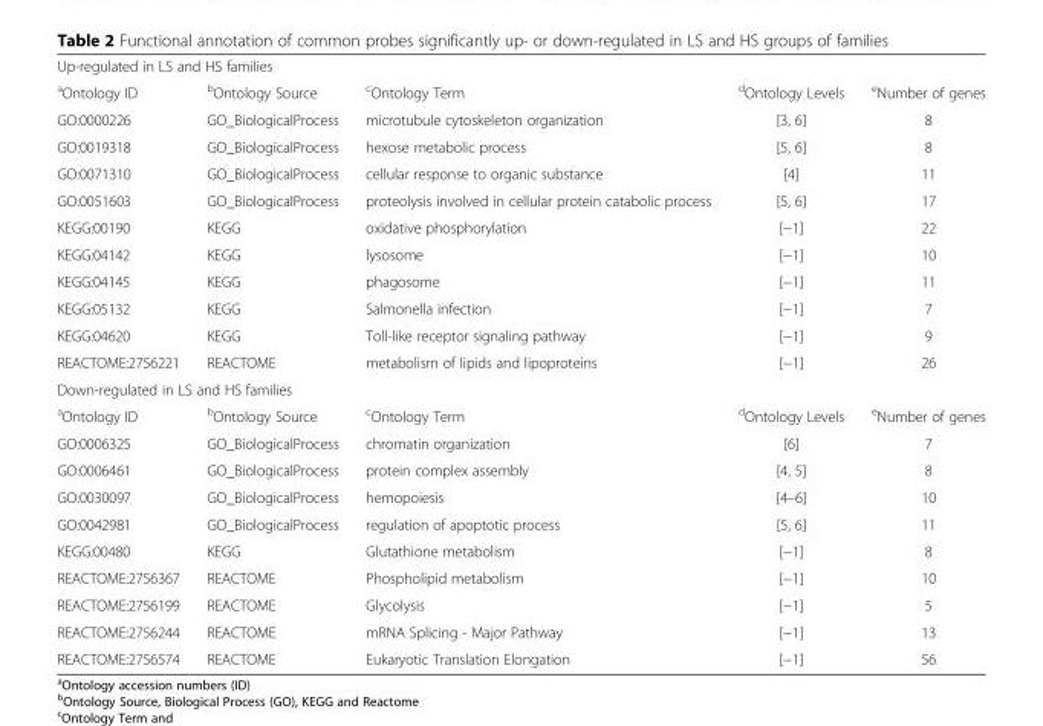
<table><tbody><tr><td colspan="5">Up-regulated in LS and HS families</td></tr><tr><td><sup>a</sup>Ontology ID</td><td><sup>b</sup>Ontology Source</td><td><sup>c</sup>Ontology Term</td><td><sup>d</sup>Ontology Levels</td><td><sup>e</sup>Number of genes</td></tr><tr><td>GO:0000226</td><td>GO_BiologicalProcess</td><td>microtubule cytoskeleton organization</td><td>[3, 6]</td><td>8</td></tr><tr><td>GO:0019318</td><td>GO_BiologicalProcess</td><td>hexose metabolic process</td><td>[5, 6]</td><td>8</td></tr><tr><td>GO:0071310</td><td>GO_BiologicalProcess</td><td>cellular response to organic substance</td><td>[4]</td><td>11</td></tr><tr><td>GO:0051603</td><td>GO_BiologicalProcess</td><td>proteolysis involved in cellular protein catabolic process</td><td>[5, 6]</td><td>17</td></tr><tr><td>KEGG:00190</td><td>KEGG</td><td>oxidative phosphorylation</td><td>[−1]</td><td>22</td></tr><tr><td>KEGG:04142</td><td>KEGG</td><td>lysosome</td><td>[−1]</td><td>10</td></tr><tr><td>KEGG:04145</td><td>KEGG</td><td>phagosome</td><td>[−1]</td><td>11</td></tr><tr><td>KEGG:05132</td><td>KEGG</td><td>Salmonella infection</td><td>[−1]</td><td>7</td></tr><tr><td>KEGG:04620</td><td>KEGG</td><td>Toll-like receptor signaling pathway</td><td>[−1]</td><td>9</td></tr><tr><td>REACTOME:2756221</td><td>REACTOME</td><td>metabolism of lipids and lipoproteins</td><td>[−1]</td><td>26</td></tr><tr><td colspan="5">Down-regulated in LS and HS families</td></tr><tr><td><sup>a</sup>Ontology ID</td><td><sup>b</sup>Ontology Source</td><td><sup>c</sup>Ontology Term</td><td><sup>d</sup>Ontology Levels</td><td><sup>e</sup>Number of genes</td></tr><tr><td>GO:0006325</td><td>GO_BiologicalProcess</td><td>chromatin organization</td><td>[6]</td><td>7</td></tr><tr><td>GO:0006461</td><td>GO_BiologicalProcess</td><td>protein complex assembly</td><td>[4, 5]</td><td>8</td></tr><tr><td>GO:0030097</td><td>GO_BiologicalProcess</td><td>hemopoiesis</td><td>[4–6]</td><td>10</td></tr><tr><td>GO:0042981</td><td>GO_BiologicalProcess</td><td>regulation of apoptotic process</td><td>[5, 6]</td><td>11</td></tr><tr><td>KEGG:00480</td><td>KEGG</td><td>Glutathione metabolism</td><td>[−1]</td><td>8</td></tr><tr><td>REACTOME:2756367</td><td>REACTOME</td><td>Phospholipid metabolism</td><td>[−1]</td><td>10</td></tr><tr><td>REACTOME:2756199</td><td>REACTOME</td><td>Glycolysis</td><td>[−1]</td><td>5</td></tr><tr><td>REACTOME:2756244</td><td>REACTOME</td><td>mRNA Splicing - Major Pathway</td><td>[−1]</td><td>13</td></tr><tr><td>REACTOME:2756574</td><td>REACTOME</td><td>Eukaryotic Translation Elongation</td><td>[−1]</td><td>56</td></tr></tbody></table>